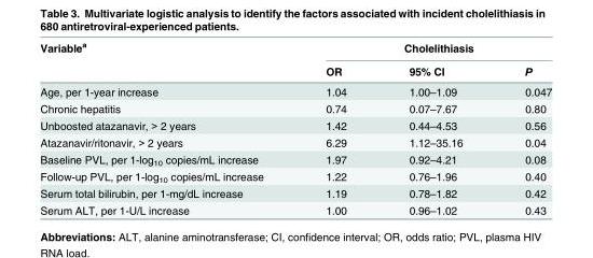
<table><thead><tr><td rowspan="2">Variable<sup>a</sup></td><td colspan="3">Cholelithiasis</td></tr><tr><td>OR</td><td>95% CI</td><td>P</td></tr></thead><tbody><tr><td>Age, per 1-year increase</td><td>1.04</td><td>1.00–1.09</td><td>0.047</td></tr><tr><td>Chronic hepatitis</td><td>0.74</td><td>0.07–7.67</td><td>0.80</td></tr><tr><td>Unboosted atazanavir, &gt; 2 years</td><td>1.42</td><td>0.44–4.53</td><td>0.56</td></tr><tr><td>Atazanavir/ritonavir, &gt; 2 years</td><td>6.29</td><td>1.12–35.16</td><td>0.04</td></tr><tr><td>Baseline PVL, per 1-log<sub>10</sub> copies/mL increase</td><td>1.97</td><td>0.92–4.21</td><td>0.08</td></tr><tr><td>Follow-up PVL, per 1-log<sub>10</sub> copies/mL increase</td><td>1.22</td><td>0.76–1.96</td><td>0.40</td></tr><tr><td>Serum total bilirubin, per 1-mg/dL increase</td><td>1.19</td><td>0.78–1.82</td><td>0.42</td></tr><tr><td>Serum ALT, per 1-U/L increase</td><td>1.00</td><td>0.96–1.02</td><td>0.43</td></tr></tbody></table>